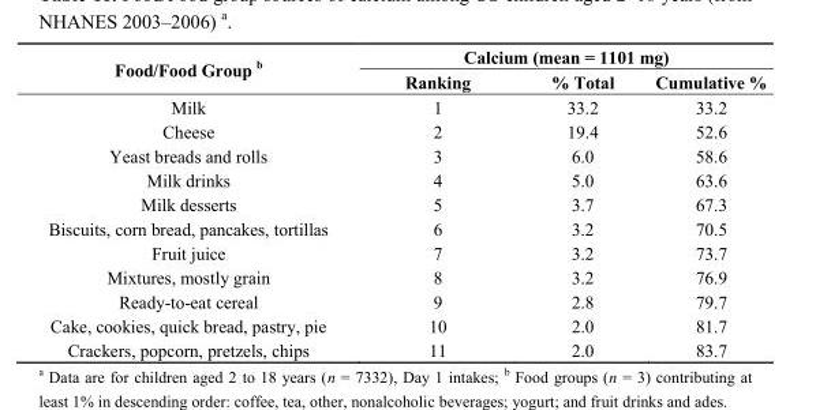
<table><thead><tr><td rowspan="2">Food/Food Group <sup>b</sup></td><td colspan="3">Calcium (mean = 1101 mg)</td></tr><tr><td>Ranking</td><td>% Total</td><td>Cumulative %</td></tr></thead><tbody><tr><td>Milk</td><td>1</td><td>33.2</td><td>33.2</td></tr><tr><td>Cheese</td><td>2</td><td>19.4</td><td>52.6</td></tr><tr><td>Yeast breads and rolls</td><td>3</td><td>6.0</td><td>58.6</td></tr><tr><td>Milk drinks</td><td>4</td><td>5.0</td><td>63.6</td></tr><tr><td>Milk desserts</td><td>5</td><td>3.7</td><td>67.3</td></tr><tr><td>Biscuits, corn bread, pancakes, tortillas</td><td>6</td><td>3.2</td><td>70.5</td></tr><tr><td>Fruit juice</td><td>7</td><td>3.2</td><td>73.7</td></tr><tr><td>Mixtures, mostly grain</td><td>8</td><td>3.2</td><td>76.9</td></tr><tr><td>Ready-to-eat cereal</td><td>9</td><td>2.8</td><td>79.7</td></tr><tr><td>Cake, cookies, quick bread, pastry, pie</td><td>10</td><td>2.0</td><td>81.7</td></tr><tr><td>Crackers, popcorn, pretzels, chips</td><td>11</td><td>2.0</td><td>83.7</td></tr></tbody></table>